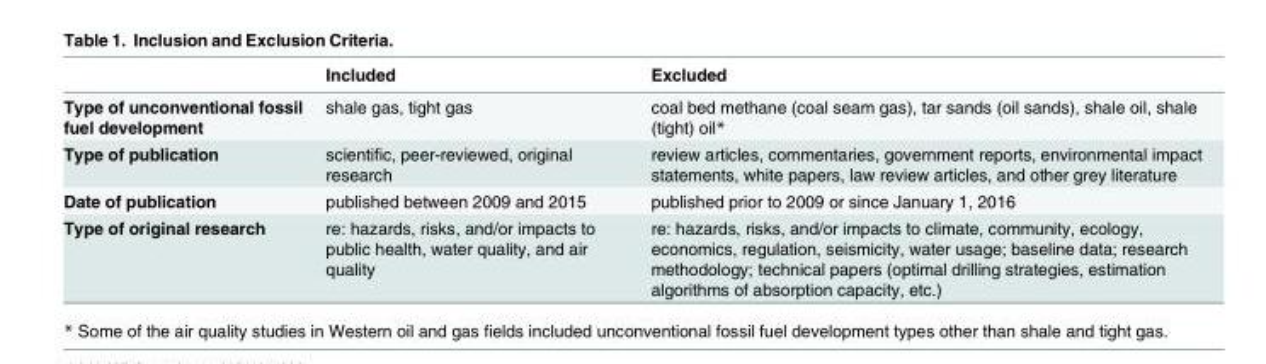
<table><thead><tr><td></td><td>Included</td><td>Excluded</td></tr></thead><tbody><tr><td>Type of unconventional fossil fuel development</td><td>shale gas, tight gas</td><td>coal bed methane (coal seam gas), tar sands (oil sands), shale oil, shale (tight) oil*</td></tr><tr><td>Type of publication</td><td>scientific, peer-reviewed, original research</td><td>review articles, commentaries, government reports, environmental impact statements, white papers, law review articles, and other grey literature</td></tr><tr><td>Date of publication</td><td>published between 2009 and 2015</td><td>published prior to 2009 or since January 1, 2016</td></tr><tr><td>Type of original research</td><td>re: hazards, risks, and/or impacts to public health, water quality, and air quality</td><td>re: hazards, risks, and/or impacts to climate, community, ecology, economics, regulation, seismicity, water usage; baseline data; research methodology; technical papers (optimal drilling strategies, estimation algorithms of absorption capacity, etc.)</td></tr></tbody></table>